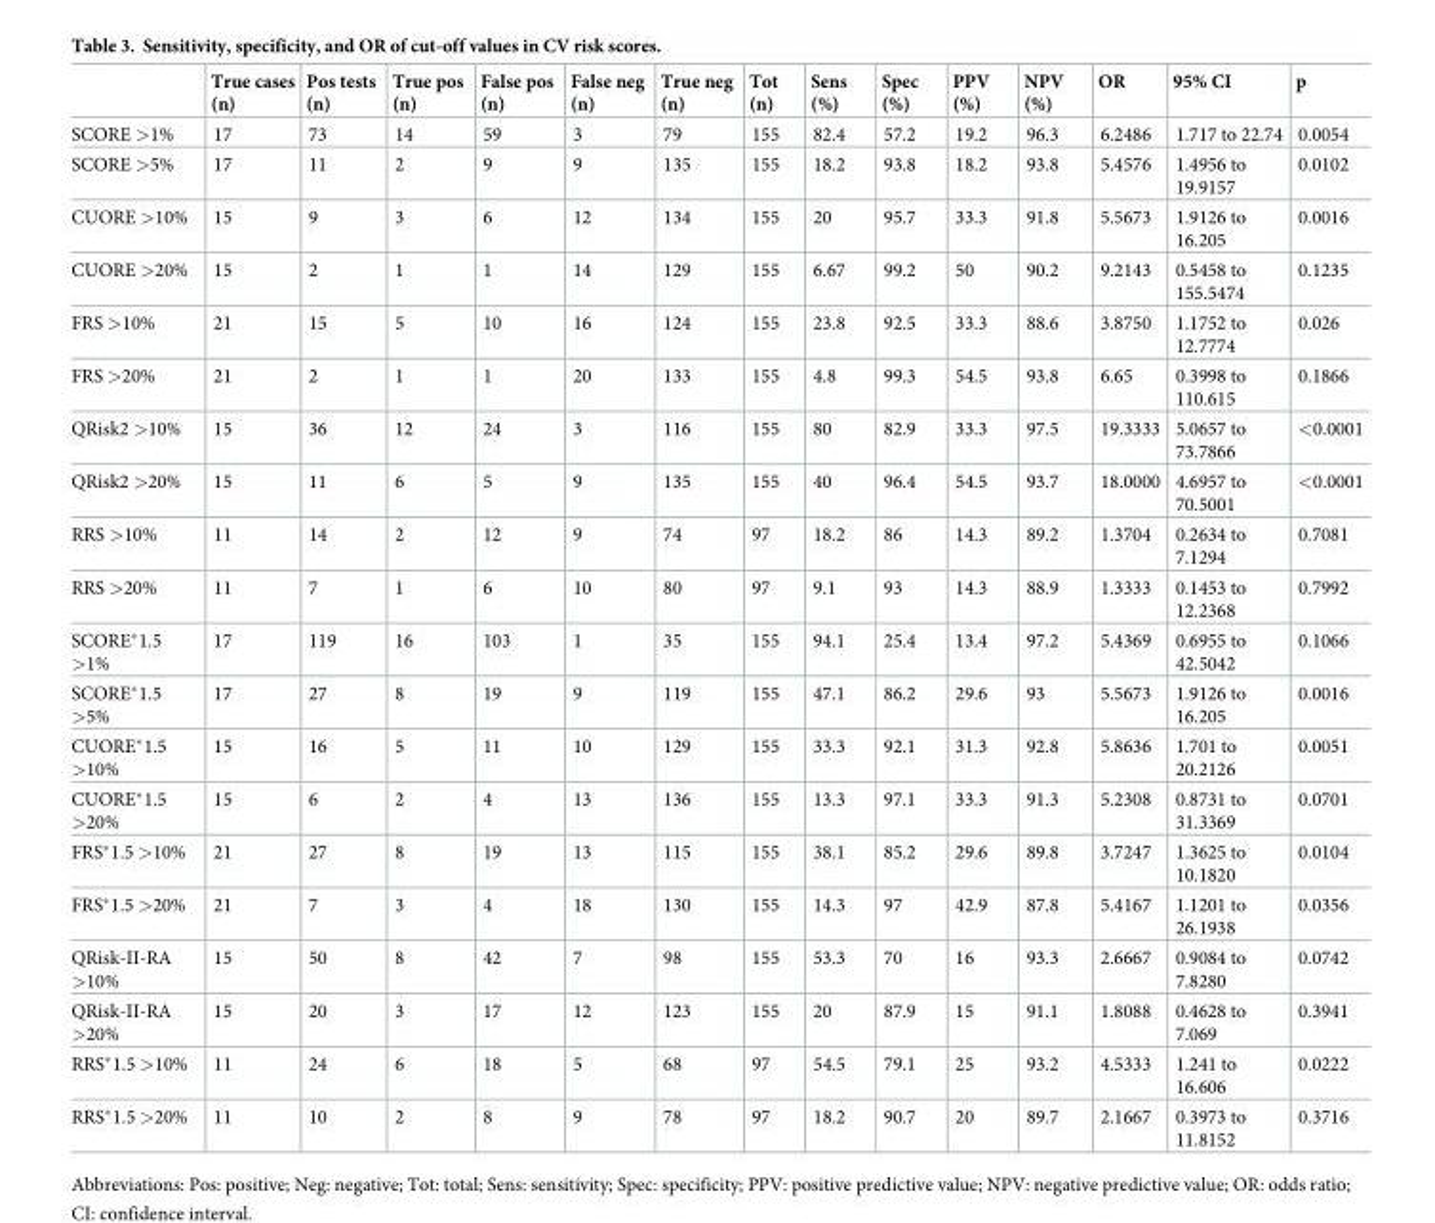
<table><thead><tr><td></td><td>True cases (n)</td><td>Pos tests (n)</td><td>True pos (n)</td><td>False pos (n)</td><td>False neg (n)</td><td>True neg (n)</td><td>Tot (n)</td><td>Sens (%)</td><td>Spec (%)</td><td>PPV (%)</td><td>NPV (%)</td><td>OR</td><td>95% CI</td><td>p</td></tr></thead><tbody><tr><td>SCORE &gt;1%</td><td>17</td><td>73</td><td>14</td><td>59</td><td>3</td><td>79</td><td>155</td><td>82.4</td><td>57.2</td><td>19.2</td><td>96.3</td><td>6.2486</td><td>1.717 to 22.74</td><td>0.0054</td></tr><tr><td>SCORE &gt;5%</td><td>17</td><td>11</td><td>2</td><td>9</td><td>9</td><td>135</td><td>155</td><td>18.2</td><td>93.8</td><td>18.2</td><td>93.8</td><td>5.4576</td><td>1.4956 to 19.9157</td><td>0.0102</td></tr><tr><td>CUORE &gt;10%</td><td>15</td><td>9</td><td>3</td><td>6</td><td>12</td><td>134</td><td>155</td><td>20</td><td>95.7</td><td>33.3</td><td>91.8</td><td>5.5673</td><td>1.9126 to 16.205</td><td>0.0016</td></tr><tr><td>CUORE &gt;20%</td><td>15</td><td>2</td><td>1</td><td>1</td><td>14</td><td>129</td><td>155</td><td>6.67</td><td>99.2</td><td>50</td><td>90.2</td><td>9.2143</td><td>0.5458 to 155.5474</td><td>0.1235</td></tr><tr><td>FRS &gt;10%</td><td>21</td><td>15</td><td>5</td><td>10</td><td>16</td><td>124</td><td>155</td><td>23.8</td><td>92.5</td><td>33.3</td><td>88.6</td><td>3.8750</td><td>1.1752 to 12.7774</td><td>0.026</td></tr><tr><td>FRS &gt;20%</td><td>21</td><td>2</td><td>1</td><td>1</td><td>20</td><td>133</td><td>155</td><td>4.8</td><td>99.3</td><td>54.5</td><td>93.8</td><td>6.65</td><td>0.3998 to 110.615</td><td>0.1866</td></tr><tr><td>QRisk2 &gt;10%</td><td>15</td><td>36</td><td>12</td><td>24</td><td>3</td><td>116</td><td>155</td><td>80</td><td>82.9</td><td>33.3</td><td>97.5</td><td>19.3333</td><td>5.0657 to 73.7866</td><td>&lt;0.0001</td></tr><tr><td>QRisk2 &gt;20%</td><td>15</td><td>11</td><td>6</td><td>5</td><td>9</td><td>135</td><td>155</td><td>40</td><td>96.4</td><td>54.5</td><td>93.7</td><td>18.0000</td><td>4.6957 to 70.5001</td><td>&lt;0.0001</td></tr><tr><td>RRS &gt;10%</td><td>11</td><td>14</td><td>2</td><td>12</td><td>9</td><td>74</td><td>97</td><td>18.2</td><td>86</td><td>14.3</td><td>89.2</td><td>1.3704</td><td>0.2634 to 7.1294</td><td>0.7081</td></tr><tr><td>RRS &gt;20%</td><td>11</td><td>7</td><td>1</td><td>6</td><td>10</td><td>80</td><td>97</td><td>9.1</td><td>93</td><td>14.3</td><td>88.9</td><td>1.3333</td><td>0.1453 to 12.2368</td><td>0.7992</td></tr><tr><td>SCORE*1.5 &gt;1%</td><td>17</td><td>119</td><td>16</td><td>103</td><td>1</td><td>35</td><td>155</td><td>94.1</td><td>25.4</td><td>13.4</td><td>97.2</td><td>5.4369</td><td>0.6955 to 42.5042</td><td>0.1066</td></tr><tr><td>SCORE*1.5 &gt;5%</td><td>17</td><td>27</td><td>8</td><td>19</td><td>9</td><td>119</td><td>155</td><td>47.1</td><td>86.2</td><td>29.6</td><td>93</td><td>5.5673</td><td>1.9126 to 16.205</td><td>0.0016</td></tr><tr><td>CUORE*1.5 &gt;10%</td><td>15</td><td>16</td><td>5</td><td>11</td><td>10</td><td>129</td><td>155</td><td>33.3</td><td>92.1</td><td>31.3</td><td>92.8</td><td>5.8636</td><td>1.701 to 20.2126</td><td>0.0051</td></tr><tr><td>CUORE*1.5 &gt;20%</td><td>15</td><td>6</td><td>2</td><td>4</td><td>13</td><td>136</td><td>155</td><td>13.3</td><td>97.1</td><td>33.3</td><td>91.3</td><td>5.2308</td><td>0.8731 to 31.3369</td><td>0.0701</td></tr><tr><td>FRS*1.5 &gt;10%</td><td>21</td><td>27</td><td>8</td><td>19</td><td>13</td><td>115</td><td>155</td><td>38.1</td><td>85.2</td><td>29.6</td><td>89.8</td><td>3.7247</td><td>1.3625 to 10.1820</td><td>0.0104</td></tr><tr><td>FRS*1.5 &gt;20%</td><td>21</td><td>7</td><td>3</td><td>4</td><td>18</td><td>130</td><td>155</td><td>14.3</td><td>97</td><td>42.9</td><td>87.8</td><td>5.4167</td><td>1.1201 to 26.1938</td><td>0.0356</td></tr><tr><td>QRisk-II-RA &gt;10%</td><td>15</td><td>50</td><td>8</td><td>42</td><td>7</td><td>98</td><td>155</td><td>53.3</td><td>70</td><td>16</td><td>93.3</td><td>2.6667</td><td>0.9084 to 7.8280</td><td>0.0742</td></tr><tr><td>QRisk-II-RA &gt;20%</td><td>15</td><td>20</td><td>3</td><td>17</td><td>12</td><td>123</td><td>155</td><td>20</td><td>87.9</td><td>15</td><td>91.1</td><td>1.8088</td><td>0.4628 to 7.069</td><td>0.3941</td></tr><tr><td>RRS*1.5 &gt;10%</td><td>11</td><td>24</td><td>6</td><td>18</td><td>5</td><td>68</td><td>97</td><td>54.5</td><td>79.1</td><td>25</td><td>93.2</td><td>4.5333</td><td>1.241 to 16.606</td><td>0.0222</td></tr><tr><td>RRS*1.5 &gt;20%</td><td>11</td><td>10</td><td>2</td><td>8</td><td>9</td><td>78</td><td>97</td><td>18.2</td><td>90.7</td><td>20</td><td>89.7</td><td>2.1667</td><td>0.3973 to 11.8152</td><td>0.3716</td></tr></tbody></table>